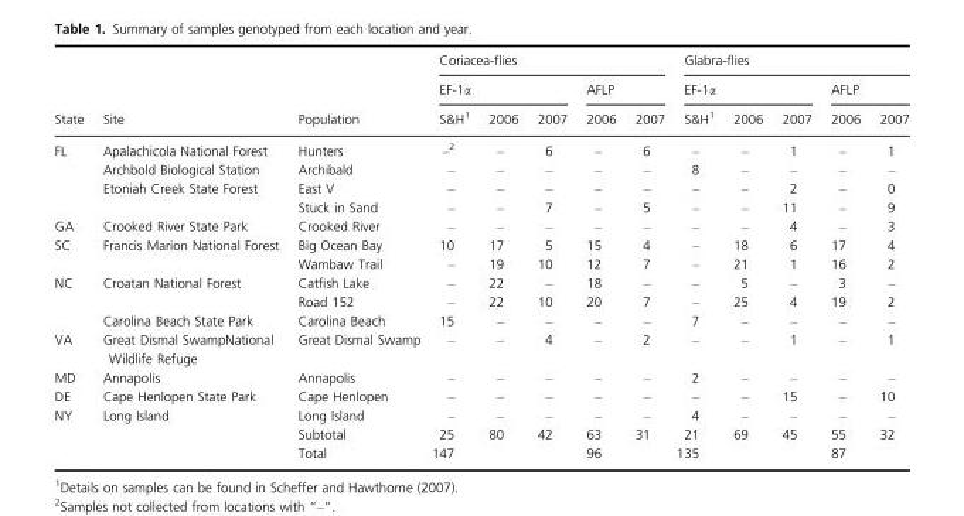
<table><thead><tr><td rowspan="3">State</td><td rowspan="3">Site</td><td rowspan="3">Population</td><td colspan="5">Coriacea-flies</td><td colspan="5">Glabra-flies</td></tr><tr><td colspan="3">EF-1α</td><td colspan="2">AFLP</td><td colspan="3">EF-1α</td><td colspan="2">AFLP</td></tr><tr><td>S&amp;H1</td><td>2006</td><td>2007</td><td>2006</td><td>2007</td><td>S&amp;H1</td><td>2006</td><td>2007</td><td>2006</td><td>2007</td></tr></thead><tbody><tr><td rowspan="4">FL</td><td>Apalachicola National Forest</td><td>Hunters</td><td>–2</td><td>–</td><td>6</td><td>–</td><td>6</td><td>–</td><td>–</td><td>1</td><td>–</td><td>1</td></tr><tr><td>Archbold Biological Station</td><td>Archibald</td><td>–</td><td>–</td><td>–</td><td>–</td><td>–</td><td>8</td><td>–</td><td>–</td><td>–</td><td>–</td></tr><tr><td rowspan="2">Etoniah Creek State Forest</td><td>East V</td><td>–</td><td>–</td><td>–</td><td>–</td><td>–</td><td>–</td><td>–</td><td>2</td><td>–</td><td>0</td></tr><tr><td>Stuck in Sand</td><td>–</td><td>–</td><td>7</td><td>–</td><td>5</td><td>–</td><td>–</td><td>11</td><td>–</td><td>9</td></tr><tr><td>GA</td><td>Crooked River State Park</td><td>Crooked River</td><td>–</td><td>–</td><td>–</td><td>–</td><td>–</td><td>–</td><td>–</td><td>4</td><td>–</td><td>3</td></tr><tr><td rowspan="2">SC</td><td rowspan="2">Francis Marion National Forest</td><td>Big Ocean Bay</td><td>10</td><td>17</td><td>5</td><td>15</td><td>4</td><td>–</td><td>18</td><td>6</td><td>17</td><td>4</td></tr><tr><td>Wambaw Trail</td><td>–</td><td>19</td><td>10</td><td>12</td><td>7</td><td>–</td><td>21</td><td>1</td><td>16</td><td>2</td></tr><tr><td rowspan="3">NC</td><td rowspan="2">Croatan National Forest</td><td>Catfish Lake</td><td>–</td><td>22</td><td>–</td><td>18</td><td>–</td><td>–</td><td>5</td><td>–</td><td>3</td><td>–</td></tr><tr><td>Road 152</td><td>–</td><td>22</td><td>10</td><td>20</td><td>7</td><td>–</td><td>25</td><td>4</td><td>19</td><td>2</td></tr><tr><td>Carolina Beach State Park</td><td>Carolina Beach</td><td>15</td><td>–</td><td>–</td><td>–</td><td>–</td><td>7</td><td>–</td><td>–</td><td>–</td><td>–</td></tr><tr><td>VA</td><td>Great Dismal SwampNational Wildlife Refuge</td><td>Great Dismal Swamp</td><td>–</td><td>–</td><td>4</td><td>–</td><td>2</td><td>–</td><td>–</td><td>1</td><td>–</td><td>1</td></tr><tr><td>MD</td><td>Annapolis</td><td>Annapolis</td><td>–</td><td>–</td><td>–</td><td>–</td><td>–</td><td>2</td><td>–</td><td>–</td><td>–</td><td>–</td></tr><tr><td>DE</td><td>Cape Henlopen State Park</td><td>Cape Henlopen</td><td>–</td><td>–</td><td>–</td><td>–</td><td>–</td><td>–</td><td>–</td><td>15</td><td>–</td><td>10</td></tr><tr><td rowspan="3">NY</td><td rowspan="2">Long Island</td><td>Long Island</td><td>–</td><td>–</td><td>–</td><td>–</td><td>–</td><td>4</td><td>–</td><td>–</td><td>–</td><td>–</td></tr><tr><td>Subtotal</td><td>25</td><td>80</td><td>42</td><td>63</td><td>31</td><td>21</td><td>69</td><td>45</td><td>55</td><td>32</td></tr><tr><td></td><td>Total</td><td colspan="3">147</td><td colspan="2">96</td><td colspan="3">135</td><td colspan="2">87</td></tr></tbody></table>